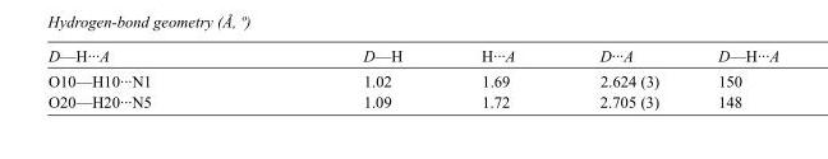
<table><tbody><tr><td>D—H···A</td><td>D—H</td><td>H···A</td><td>D···A</td><td>D—H···A</td></tr><tr><td>O10—H10···N1</td><td>1.02</td><td>1.69</td><td>2.624 (3)</td><td>150</td></tr><tr><td>O20—H20···N5</td><td>1.09</td><td>1.72</td><td>2.705 (3)</td><td>148</td></tr></tbody></table>